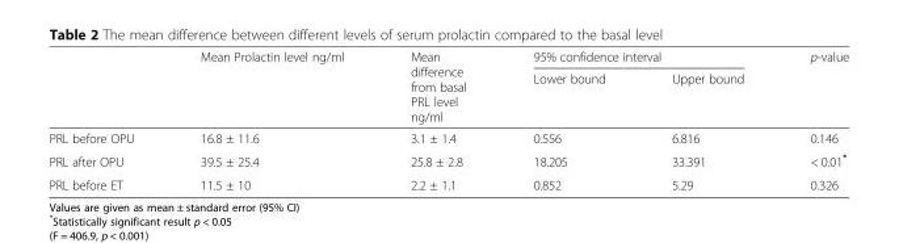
<table><thead><tr><td rowspan="2"></td><td rowspan="2">Mean Prolactin level ng/ml</td><td rowspan="2">Mean difference from basal PRL level ng/ml</td><td colspan="2">95% confidence interval</td><td rowspan="2">p-value</td></tr><tr><td>Lower bound</td><td>Upper bound</td></tr></thead><tbody><tr><td>PRL before OPU</td><td>16.8 ± 11.6</td><td>3.1 ± 1.4</td><td>0.556</td><td>6.816</td><td>0.146</td></tr><tr><td>PRL after OPU</td><td>39.5 ± 25.4</td><td>25.8 ± 2.8</td><td>18.205</td><td>33.391</td><td>&lt; 0.01*</td></tr><tr><td>PRL before ET</td><td>11.5 ± 10</td><td>2.2 ± 1.1</td><td>0.852</td><td>5.29</td><td>0.326</td></tr></tbody></table>